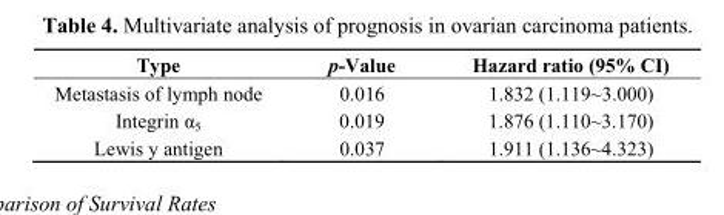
<table><thead><tr><td>Type</td><td>p-Value</td><td>Hazard ratio (95% CI)</td></tr></thead><tbody><tr><td>Metastasis of lymph node</td><td>0.016</td><td>1.832 (1.119~3.000)</td></tr><tr><td>Integrin α<sub>5</sub></td><td>0.019</td><td>1.876 (1.110~3.170)</td></tr><tr><td>Lewis y antigen</td><td>0.037</td><td>1.911 (1.136~4.323)</td></tr></tbody></table>